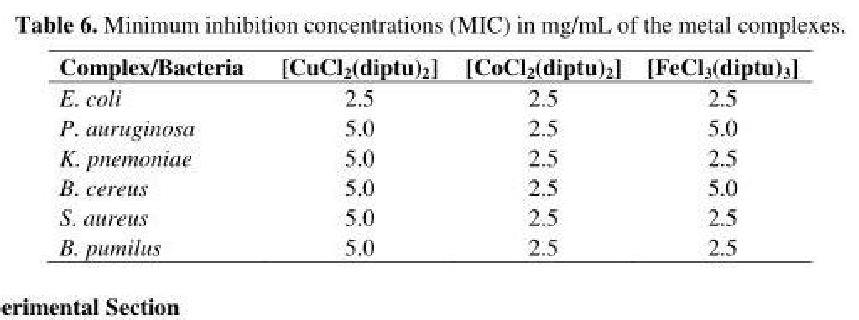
<table><thead><tr><td>Complex/Bacteria</td><td>[CuCl<sub>2</sub>(diptu)<sub>2</sub>]</td><td>[CoCl<sub>2</sub>(diptu)<sub>2</sub>]</td><td>[FeCl<sub>3</sub>(diptu)<sub>3</sub>]</td></tr></thead><tbody><tr><td>E. coli</td><td>2.5</td><td>2.5</td><td>2.5</td></tr><tr><td>P. auruginosa</td><td>5.0</td><td>2.5</td><td>5.0</td></tr><tr><td>K. pnemoniae</td><td>5.0</td><td>2.5</td><td>2.5</td></tr><tr><td>B. cereus</td><td>5.0</td><td>2.5</td><td>5.0</td></tr><tr><td>S. aureus</td><td>5.0</td><td>2.5</td><td>2.5</td></tr><tr><td>B. pumilus</td><td>5.0</td><td>2.5</td><td>2.5</td></tr></tbody></table>